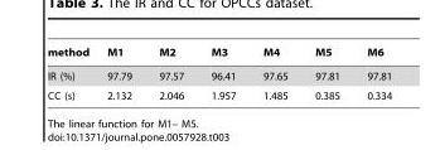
<table><thead><tr><td>method</td><td>M1</td><td>M2</td><td>M3</td><td>M4</td><td>M5</td><td>M6</td></tr></thead><tbody><tr><td>IR (%)</td><td>97.79</td><td>97.57</td><td>96.41</td><td>97.65</td><td>97.81</td><td>97.81</td></tr><tr><td>CC (s)</td><td>2.132</td><td>2.046</td><td>1.957</td><td>1.485</td><td>0.385</td><td>0.334</td></tr></tbody></table>